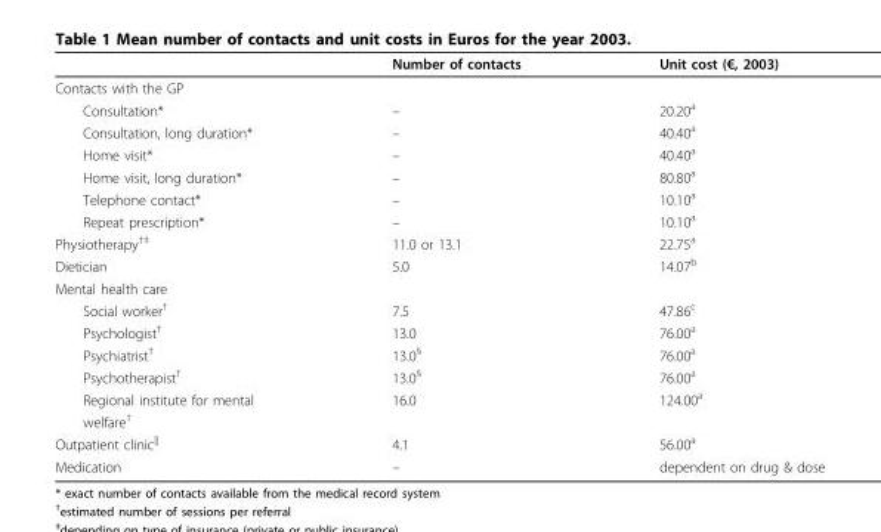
<table><thead><tr><td></td><td>Number of contacts</td><td>Unit cost (€, 2003)</td></tr></thead><tbody><tr><td colspan="3">Contacts with the GP</td></tr><tr><td>Consultation*</td><td>–</td><td>20.20<sup>a</sup></td></tr><tr><td>Consultation, long duration*</td><td>–</td><td>40.40<sup>a</sup></td></tr><tr><td>Home visit*</td><td>–</td><td>40.40<sup>a</sup></td></tr><tr><td>Home visit, long duration*</td><td>–</td><td>80.80<sup>a</sup></td></tr><tr><td>Telephone contact*</td><td>–</td><td>10.10<sup>a</sup></td></tr><tr><td>Repeat prescription*</td><td>–</td><td>10.10<sup>a</sup></td></tr><tr><td>Physiotherapy<sup>†‡</sup></td><td>11.0 or 13.1</td><td>22.75<sup>a</sup></td></tr><tr><td>Dietician</td><td>5.0</td><td>14.07<sup>b</sup></td></tr><tr><td colspan="3">Mental health care</td></tr><tr><td>Social worker<sup>†</sup></td><td>7.5</td><td>47.86<sup>c</sup></td></tr><tr><td>Psychologist<sup>†</sup></td><td>13.0</td><td>76.00<sup>a</sup></td></tr><tr><td>Psychiatrist<sup>†</sup></td><td>13.0<sup>§</sup></td><td>76.00<sup>a</sup></td></tr><tr><td>Psychotherapist<sup>†</sup></td><td>13.0<sup>§</sup></td><td>76.00<sup>a</sup></td></tr><tr><td>Regional institute for mental</td><td>16.0</td><td>124.00<sup>a</sup></td></tr><tr><td colspan="3">welfare<sup>†</sup></td></tr><tr><td>Outpatient clinic<sup>||</sup></td><td>4.1</td><td>56.00<sup>a</sup></td></tr><tr><td>Medication</td><td>–</td><td>dependent on drug &amp; dose</td></tr></tbody></table>